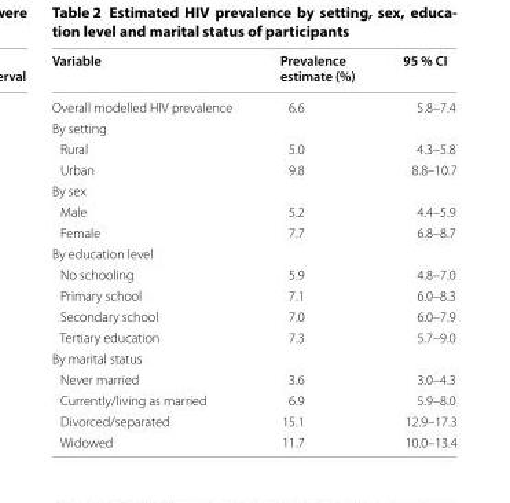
<table><thead><tr><td>Variable</td><td>Prevalence estimate (%)</td><td>95 % CI</td></tr></thead><tbody><tr><td>Overall modelled HIV prevalence</td><td>6.6</td><td>5.8–7.4</td></tr><tr><td colspan="3">By setting</td></tr><tr><td>Rural</td><td>5.0</td><td>4.3–5.8</td></tr><tr><td>Urban</td><td>9.8</td><td>8.8–10.7</td></tr><tr><td colspan="3">By sex</td></tr><tr><td>Male</td><td>5.2</td><td>4.4–5.9</td></tr><tr><td>Female</td><td>7.7</td><td>6.8–8.7</td></tr><tr><td colspan="3">By education level</td></tr><tr><td>No schooling</td><td>5.9</td><td>4.8–7.0</td></tr><tr><td>Primary school</td><td>7.1</td><td>6.0–8.3</td></tr><tr><td>Secondary school</td><td>7.0</td><td>6.0–7.9</td></tr><tr><td>Tertiary education</td><td>7.3</td><td>5.7–9.0</td></tr><tr><td colspan="3">By marital status</td></tr><tr><td>Never married</td><td>3.6</td><td>3.0–4.3</td></tr><tr><td>Currently/living as married</td><td>6.9</td><td>5.9–8.0</td></tr><tr><td>Divorced/separated</td><td>15.1</td><td>12.9–17.3</td></tr><tr><td>Widowed</td><td>11.7</td><td>10.0–13.4</td></tr></tbody></table>